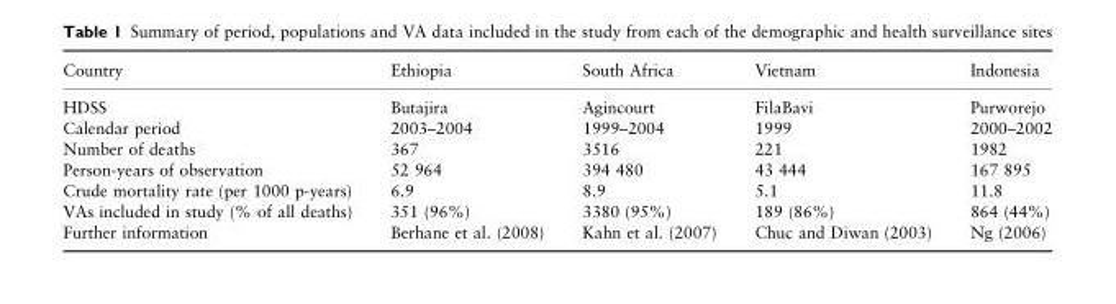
<table><thead><tr><td>Country</td><td>Ethiopia</td><td>South Africa</td><td>Vietnam</td><td>Indonesia</td></tr></thead><tbody><tr><td>HDSS</td><td>Butajira</td><td>Agincourt</td><td>FilaBavi</td><td>Purworejo</td></tr><tr><td>Calendar period</td><td>2003–2004</td><td>1999–2004</td><td>1999</td><td>2000–2002</td></tr><tr><td>Number of deaths</td><td>367</td><td>3516</td><td>221</td><td>1982</td></tr><tr><td>Person-years of observation</td><td>52 964</td><td>394 480</td><td>43 444</td><td>167 895</td></tr><tr><td>Crude mortality rate (per 1000 p-years)</td><td>6.9</td><td>8.9</td><td>5.1</td><td>11.8</td></tr><tr><td>VAs included in study (% of all deaths)</td><td>351 (96%)</td><td>3380 (95%)</td><td>189 (86%)</td><td>864 (44%)</td></tr><tr><td>Further information</td><td>Berhane et al. (2008)</td><td>Kahn et al. (2007)</td><td>Chuc and Diwan (2003)</td><td>Ng (2006)</td></tr></tbody></table>